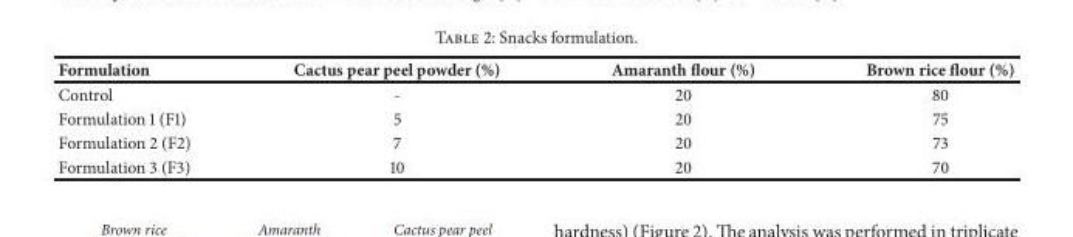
<table><thead><tr><td>Formulation</td><td>Cactus pear peel powder (%)</td><td>Amaranth flour (%)</td><td>Brown rice flour (%)</td></tr></thead><tbody><tr><td>Control</td><td>-</td><td>20</td><td>80</td></tr><tr><td>Formulation 1 (F1)</td><td>5</td><td>20</td><td>75</td></tr><tr><td>Formulation 2 (F2)</td><td>7</td><td>20</td><td>73</td></tr><tr><td>Formulation 3 (F3)</td><td>10</td><td>20</td><td>70</td></tr></tbody></table>